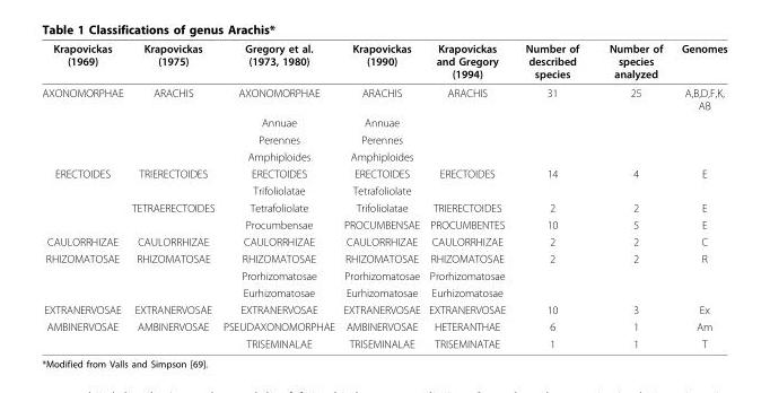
<table><thead><tr><td>Krapovickas (1969)</td><td>Krapovickas (1975)</td><td>Gregory et al. (1973, 1980)</td><td>Krapovickas (1990)</td><td>Krapovickas and Gregory (1994)</td><td>Number of described species</td><td>Number of species analyzed</td><td>Genomes</td></tr></thead><tbody><tr><td rowspan="4">AXONOMORPHAE</td><td>ARACHIS</td><td>AXONOMORPHAE</td><td>ARACHIS</td><td>ARACHIS</td><td>31</td><td>25</td><td>A,B,D,F,K, AB</td></tr><tr><td></td><td>Annuae</td><td>Annuae</td><td></td><td></td><td></td><td></td></tr><tr><td></td><td>Perennes</td><td>Perennes</td><td></td><td></td><td></td><td></td></tr><tr><td></td><td>Amphiploides</td><td>Amphiploides</td><td></td><td></td><td></td><td></td></tr><tr><td rowspan="4">ERECTOIDES</td><td>TRIERECTOIDES</td><td>ERECTOIDES</td><td>ERECTOIDES</td><td>ERECTOIDES</td><td>14</td><td>4</td><td>E</td></tr><tr><td></td><td>Trifoliolatae</td><td>Tetrafoliolate</td><td></td><td></td><td></td><td></td></tr><tr><td>TETRAERECTOIDES</td><td>Tetrafoliolate</td><td>Trifoliolatae</td><td>TRIERECTOIDES</td><td>2</td><td>2</td><td>E</td></tr><tr><td></td><td>Procumbensae</td><td>PROCUMBENSAE</td><td>PROCUMBENTES</td><td>10</td><td>5</td><td>E</td></tr><tr><td>CAULORRHIZAE</td><td>CAULORRHIZAE</td><td>CAULORRHIZAE</td><td>CAULORRHIZAE</td><td>CAULORRHIZAE</td><td>2</td><td>2</td><td>C</td></tr><tr><td rowspan="3">RHIZOMATOSAE</td><td>RHIZOMATOSAE</td><td>RHIZOMATOSAE</td><td>RHIZOMATOSAE</td><td>RHIZOMATOSAE</td><td>2</td><td>2</td><td>R</td></tr><tr><td></td><td>Prorhizomatosae</td><td>Prorhizomatosae</td><td>Prorhizomatosae</td><td></td><td></td><td></td></tr><tr><td></td><td>Eurhizomatosae</td><td>Eurhizomatosae</td><td>Eurhizomatosae</td><td></td><td></td><td></td></tr><tr><td>EXTRANERVOSAE</td><td>EXTRANERVOSAE</td><td>EXTRANERVOSAE</td><td>EXTRANERVOSAE</td><td>EXTRANERVOSAE</td><td>10</td><td>3</td><td>Ex</td></tr><tr><td rowspan="2">AMBINERVOSAE</td><td>AMBINERVOSAE</td><td>PSEUDAXONOMORPHAE</td><td>AMBINERVOSAE</td><td>HETERANTHAE</td><td>6</td><td>1</td><td>Am</td></tr><tr><td></td><td>TRISEMINALAE</td><td>TRISEMINALAE</td><td>TRISEMINATAE</td><td>1</td><td>1</td><td>T</td></tr></tbody></table>